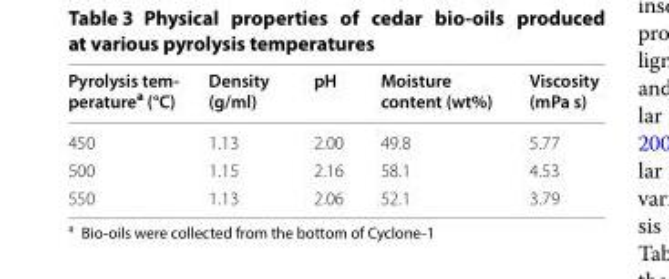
<table><thead><tr><td>Pyrolysis tem‑ peraturea (°C)</td><td>Density (g/ml)</td><td>pH</td><td>Moisture content (wt%)</td><td>Viscosity (mPa s)</td></tr></thead><tbody><tr><td>450</td><td>1.13</td><td>2.00</td><td>49.8</td><td>5.77</td></tr><tr><td>500</td><td>1.15</td><td>2.16</td><td>58.1</td><td>4.53</td></tr><tr><td>550</td><td>1.13</td><td>2.06</td><td>52.1</td><td>3.79</td></tr></tbody></table>